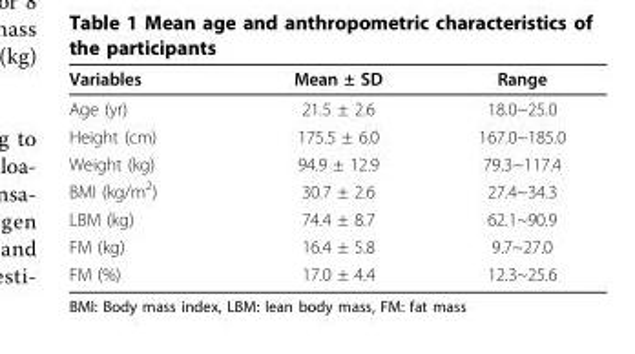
<table><thead><tr><td>Variables</td><td>Mean ± SD</td><td>Range</td></tr></thead><tbody><tr><td>Age (yr)</td><td>21.5 ± 2.6</td><td>18.0~25.0</td></tr><tr><td>Height (cm)</td><td>175.5 ± 6.0</td><td>167.0~185.0</td></tr><tr><td>Weight (kg)</td><td>94.9 ± 12.9</td><td>79.3~117.4</td></tr><tr><td>BMI (kg/m<sup>2</sup>)</td><td>30.7 ± 2.6</td><td>27.4~34.3</td></tr><tr><td>LBM (kg)</td><td>74.4 ± 8.7</td><td>62.1~90.9</td></tr><tr><td>FM (kg)</td><td>16.4 ± 5.8</td><td>9.7~27.0</td></tr><tr><td>FM (%)</td><td>17.0 ± 4.4</td><td>12.3~25.6</td></tr></tbody></table>